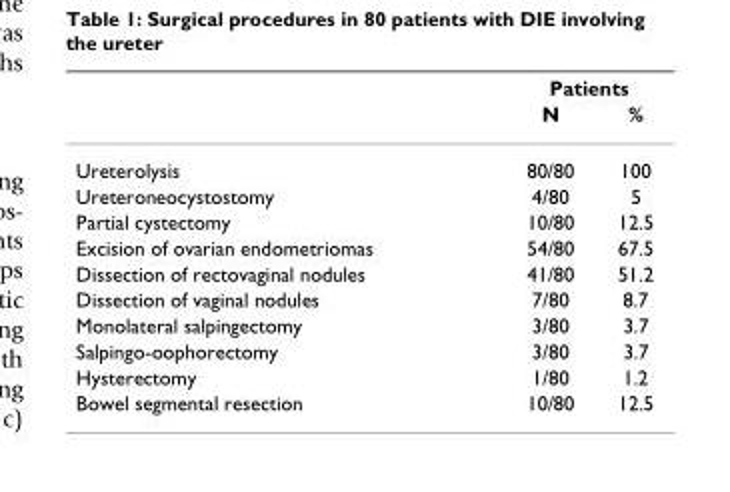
<table><thead><tr><td rowspan="2"></td><td colspan="2">Patients</td></tr><tr><td>N</td><td>%</td></tr></thead><tbody><tr><td>Ureterolysis</td><td>80/80</td><td>100</td></tr><tr><td>Ureteroneocystostomy</td><td>4/80</td><td>5</td></tr><tr><td>Partial cystectomy</td><td>10/80</td><td>12.5</td></tr><tr><td>Excision of ovarian endometriomas</td><td>54/80</td><td>67.5</td></tr><tr><td>Dissection of rectovaginal nodules</td><td>41/80</td><td>51.2</td></tr><tr><td>Dissection of vaginal nodules</td><td>7/80</td><td>8.7</td></tr><tr><td>Monolateral salpingectomy</td><td>3/80</td><td>3.7</td></tr><tr><td>Salpingo-oophorectomy</td><td>3/80</td><td>3.7</td></tr><tr><td>Hysterectomy</td><td>1/80</td><td>1.2</td></tr><tr><td>Bowel segmental resection</td><td>10/80</td><td>12.5</td></tr></tbody></table>